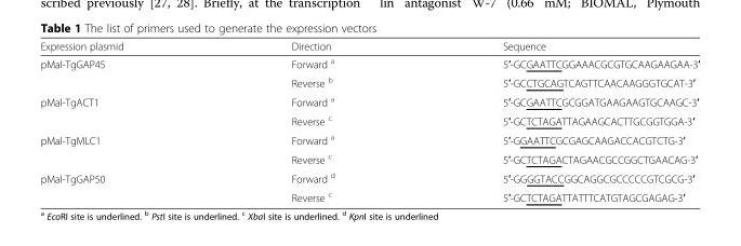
<table><thead><tr><td>Expression plasmid</td><td>Direction</td><td>Sequence</td></tr></thead><tbody><tr><td rowspan="2">pMal-TgGAP45</td><td>Forward <sup>a</sup></td><td>5′-GCGAATTCGGAAACGCGTGCAAGAAGAA-3′</td></tr><tr><td>Reverse <sup>b</sup></td><td>5′-GCCTGCAGTCAGTTCAACAAGGGTGCAT-3′</td></tr><tr><td rowspan="2">pMal-TgACT1</td><td>Forward <sup>a</sup></td><td>5′-GCGAATTCGCGGATGAAGAAGTGCAAGC-3′</td></tr><tr><td>Reverse <sup>c</sup></td><td>5′-GCTCTAGATTAGAAGCACTTGCGGTGGA-3′</td></tr><tr><td rowspan="2">pMal-TgMLC1</td><td>Forward <sup>a</sup></td><td>5′-GGAATTCGCGAGCAAGACCACGTCTG-3′</td></tr><tr><td>Reverse <sup>c</sup></td><td>5′-GCTCTAGACTAGAACGCCGGCTGAACAG-3′</td></tr><tr><td rowspan="2">pMal-TgGAP50</td><td>Forward <sup>d</sup></td><td>5′-GGGGTACCGGCAGGCGCCCCCGTCGCG-3′</td></tr><tr><td>Reverse <sup>c</sup></td><td>5′-GCTCTAGATTATTTCATGTAGCGAGAG-3′</td></tr></tbody></table>